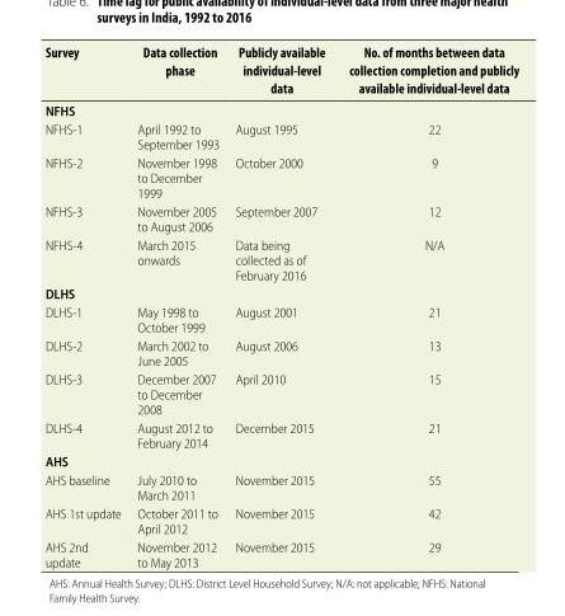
<table><thead><tr><td>Survey</td><td>Data collection phase</td><td>Publicly available individual-level data</td><td>No. of months between data collection completion and publicly available individual-level data</td></tr></thead><tbody><tr><td colspan="4">NFHS</td></tr><tr><td>NFHS-1</td><td>April 1992 to September 1993</td><td>August 1995</td><td>22</td></tr><tr><td>NFHS-2</td><td>November 1998 to December 1999</td><td>October 2000</td><td>9</td></tr><tr><td>NFHS-3</td><td>November 2005 to August 2006</td><td>September 2007</td><td>12</td></tr><tr><td>NFHS-4</td><td>March 2015 onwards</td><td>Data being collected as of February 2016</td><td>N/A</td></tr><tr><td colspan="4">DLHS</td></tr><tr><td>DLHS-1</td><td>May 1998 to October 1999</td><td>August 2001</td><td>21</td></tr><tr><td>DLHS-2</td><td>March 2002 to June 2005</td><td>August 2006</td><td>13</td></tr><tr><td>DLHS-3</td><td>December 2007 to December 2008</td><td>April 2010</td><td>15</td></tr><tr><td>DLHS-4</td><td>August 2012 to February 2014</td><td>December 2015</td><td>21</td></tr><tr><td colspan="4">AHS</td></tr><tr><td>AHS baseline</td><td>July 2010 to March 2011</td><td>November 2015</td><td>55</td></tr><tr><td>AHS 1st update</td><td>October 2011 to April 2012</td><td>November 2015</td><td>42</td></tr><tr><td>AHS 2nd update</td><td>November 2012 to May 2013</td><td>November 2015</td><td>29</td></tr></tbody></table>